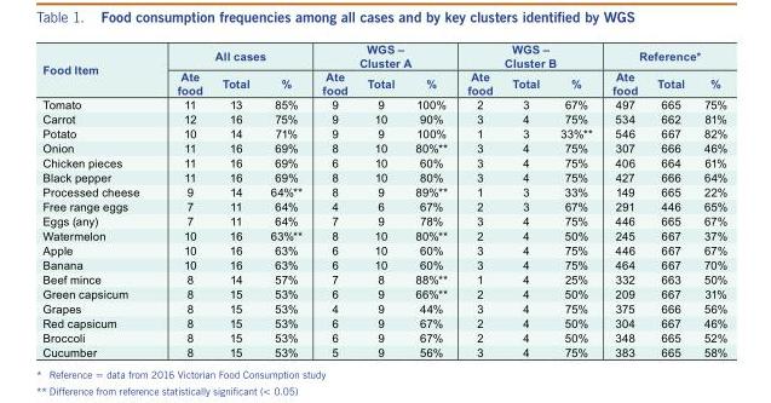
<table><thead><tr><td rowspan="2">Food Item</td><td colspan="3">All cases</td><td colspan="3">WGS – Cluster A</td><td colspan="3">WGS – Cluster B</td><td colspan="3">Reference*</td></tr><tr><td>Ate food</td><td>Total</td><td>%</td><td>Ate food</td><td>Total</td><td>%</td><td>Ate food</td><td>Total</td><td>%</td><td>Ate food</td><td>Total</td><td>%</td></tr></thead><tbody><tr><td>Tomato</td><td>11</td><td>13</td><td>85%</td><td>9</td><td>9</td><td>100%</td><td>2</td><td>3</td><td>67%</td><td>497</td><td>665</td><td>75%</td></tr><tr><td>Carrot</td><td>12</td><td>16</td><td>75%</td><td>9</td><td>10</td><td>90%</td><td>3</td><td>4</td><td>75%</td><td>534</td><td>662</td><td>81%</td></tr><tr><td>Potato</td><td>10</td><td>14</td><td>71%</td><td>9</td><td>9</td><td>100%</td><td>1</td><td>3</td><td>33%**</td><td>546</td><td>667</td><td>82%</td></tr><tr><td>Onion</td><td>11</td><td>16</td><td>69%</td><td>8</td><td>10</td><td>80%**</td><td>3</td><td>4</td><td>75%</td><td>307</td><td>666</td><td>46%</td></tr><tr><td>Chicken pieces</td><td>11</td><td>16</td><td>69%</td><td>6</td><td>10</td><td>60%</td><td>3</td><td>4</td><td>75%</td><td>406</td><td>664</td><td>61%</td></tr><tr><td>Black pepper</td><td>11</td><td>16</td><td>69%</td><td>8</td><td>10</td><td>80%</td><td>3</td><td>4</td><td>75%</td><td>427</td><td>666</td><td>64%</td></tr><tr><td>Processed cheese</td><td>9</td><td>14</td><td>64%**</td><td>8</td><td>9</td><td>89%**</td><td>1</td><td>3</td><td>33%</td><td>149</td><td>665</td><td>22%</td></tr><tr><td>Free range eggs</td><td>7</td><td>11</td><td>64%</td><td>4</td><td>6</td><td>67%</td><td>2</td><td>3</td><td>67%</td><td>291</td><td>446</td><td>65%</td></tr><tr><td>Eggs (any)</td><td>7</td><td>11</td><td>64%</td><td>7</td><td>9</td><td>78%</td><td>3</td><td>4</td><td>75%</td><td>446</td><td>665</td><td>67%</td></tr><tr><td>Watermelon</td><td>10</td><td>16</td><td>63%**</td><td>8</td><td>10</td><td>80%**</td><td>2</td><td>4</td><td>50%</td><td>245</td><td>667</td><td>37%</td></tr><tr><td>Apple</td><td>10</td><td>16</td><td>63%</td><td>6</td><td>10</td><td>60%</td><td>3</td><td>4</td><td>75%</td><td>446</td><td>667</td><td>67%</td></tr><tr><td>Banana</td><td>10</td><td>16</td><td>63%</td><td>6</td><td>10</td><td>60%</td><td>3</td><td>4</td><td>75%</td><td>464</td><td>667</td><td>70%</td></tr><tr><td>Beef mince</td><td>8</td><td>14</td><td>57%</td><td>7</td><td>8</td><td>88%**</td><td>1</td><td>4</td><td>25%</td><td>332</td><td>663</td><td>50%</td></tr><tr><td>Green capsicum</td><td>8</td><td>15</td><td>53%</td><td>6</td><td>9</td><td>66%**</td><td>2</td><td>4</td><td>50%</td><td>209</td><td>667</td><td>31%</td></tr><tr><td>Grapes</td><td>8</td><td>15</td><td>53%</td><td>4</td><td>9</td><td>44%</td><td>3</td><td>4</td><td>75%</td><td>375</td><td>666</td><td>56%</td></tr><tr><td>Red capsicum</td><td>8</td><td>15</td><td>53%</td><td>6</td><td>9</td><td>67%</td><td>2</td><td>4</td><td>50%</td><td>304</td><td>667</td><td>46%</td></tr><tr><td>Broccoli</td><td>8</td><td>15</td><td>53%</td><td>6</td><td>9</td><td>67%</td><td>2</td><td>4</td><td>50%</td><td>348</td><td>665</td><td>52%</td></tr><tr><td>Cucumber</td><td>8</td><td>15</td><td>53%</td><td>5</td><td>9</td><td>56%</td><td>3</td><td>4</td><td>75%</td><td>383</td><td>665</td><td>58%</td></tr></tbody></table>